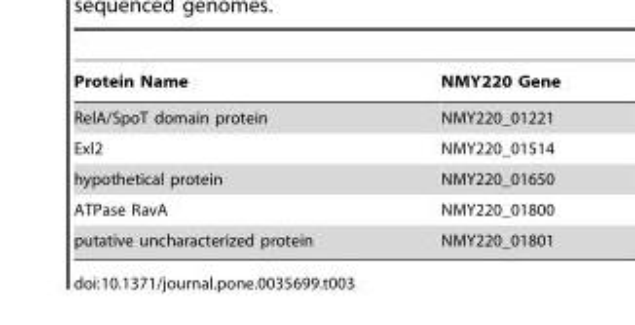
<table><thead><tr><td>Protein Name</td><td>NMY220 Gene</td></tr></thead><tbody><tr><td>RelA/SpoT domain protein</td><td>NMY220_01221</td></tr><tr><td>Exl2</td><td>NMY220_01514</td></tr><tr><td>hypothetical protein</td><td>NMY220_01650</td></tr><tr><td>ATPase RavA</td><td>NMY220_01800</td></tr><tr><td>putative uncharacterized protein</td><td>NMY220_01801</td></tr></tbody></table>